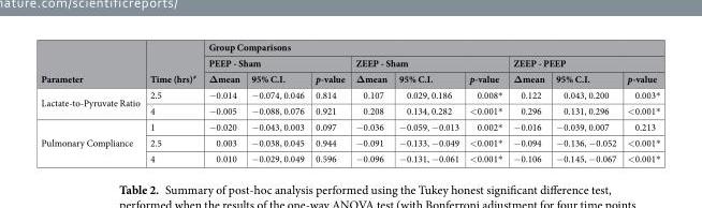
<table><thead><tr><td rowspan="3">Parameter</td><td rowspan="3">Time (hrs)<sup>#</sup></td><td colspan="9">Group Comparisons</td></tr><tr><td colspan="3">PEEP - Sham</td><td colspan="3">ZEEP - Sham</td><td colspan="3">ZEEP - PEEP</td></tr><tr><td>Δmean</td><td>95% C.I.</td><td>p-value</td><td>Δmean</td><td>95% C.I.</td><td>p-value</td><td>Δmean</td><td>95% C.I.</td><td>p-value</td></tr></thead><tbody><tr><td rowspan="2">Lactate-to-Pyruvate Ratio</td><td>2.5</td><td>−0.014</td><td>−0.074, 0.046</td><td>0.814</td><td>0.107</td><td>0.029, 0.186</td><td>0.008*</td><td>0.122</td><td>0.043, 0.200</td><td>0.003*</td></tr><tr><td>4</td><td>−0.005</td><td>−0.088, 0.076</td><td>0.921</td><td>0.208</td><td>0.134, 0.282</td><td>&lt;0.001*</td><td>0.296</td><td>0.131, 0.296</td><td>&lt;0.001*</td></tr><tr><td rowspan="3">Pulmonary Compliance</td><td>1</td><td>−0.020</td><td>−0.043, 0.003</td><td>0.097</td><td>−0.036</td><td>−0.059, −0.013</td><td>0.002*</td><td>−0.016</td><td>−0.039, 0.007</td><td>0.213</td></tr><tr><td>2.5</td><td>0.003</td><td>−0.038, 0.045</td><td>0.944</td><td>−0.091</td><td>−0.133, −0.049</td><td>&lt;0.001*</td><td>−0.094</td><td>−0.136, −0.052</td><td>&lt;0.001*</td></tr><tr><td>4</td><td>0.010</td><td>−0.029, 0.049</td><td>0.596</td><td>−0.096</td><td>−0.131, −0.061</td><td>&lt;0.001*</td><td>−0.106</td><td>−0.145, −0.067</td><td>&lt;0.001*</td></tr></tbody></table>